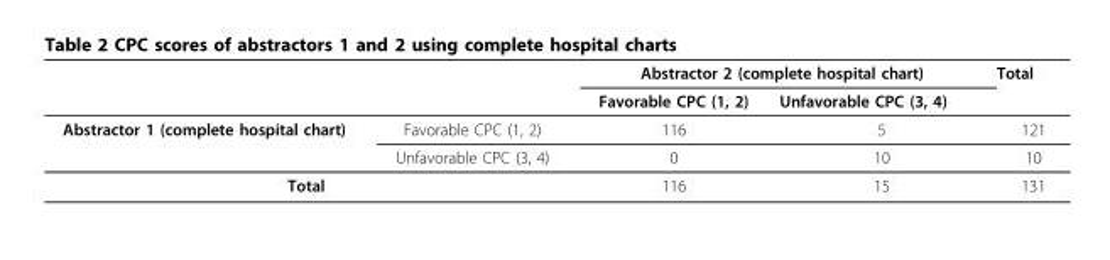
<table><thead><tr><td rowspan="2"></td><td rowspan="2"></td><td colspan="2">Abstractor 2 (complete hospital chart)</td><td rowspan="2">Total</td></tr><tr><td>Favorable CPC (1, 2)</td><td>Unfavorable CPC (3, 4)</td></tr></thead><tbody><tr><td rowspan="2">Abstractor 1 (complete hospital chart)</td><td>Favorable CPC (1, 2)</td><td>116</td><td>5</td><td>121</td></tr><tr><td>Unfavorable CPC (3, 4)</td><td>0</td><td>10</td><td>10</td></tr><tr><td colspan="2">Total</td><td>116</td><td>15</td><td>131</td></tr></tbody></table>